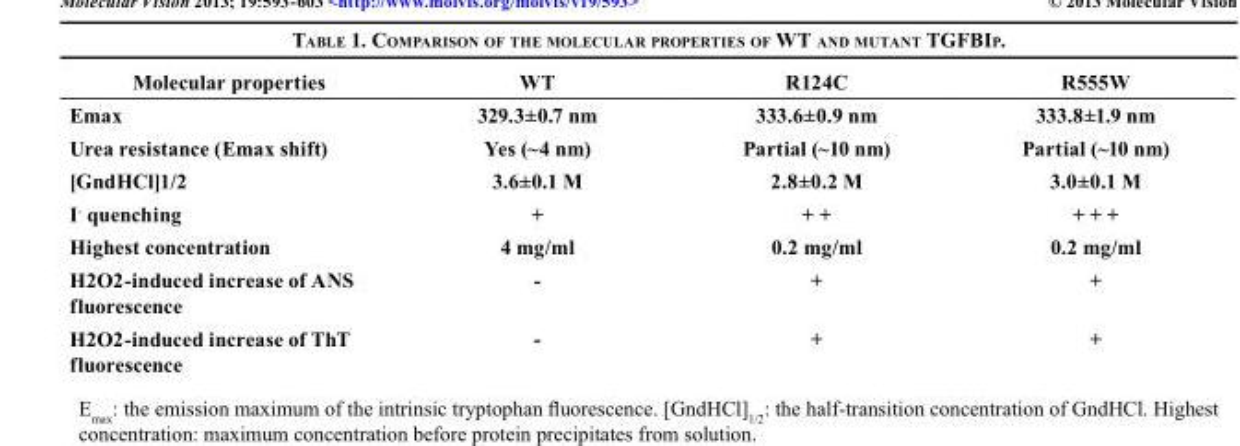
<table><thead><tr><td>Molecular properties</td><td>WT</td><td>R124C</td><td>R555W</td></tr></thead><tbody><tr><td>E<sub>max</sub></td><td>329.3±0.7 nm</td><td>333.6±0.9 nm</td><td>333.8±1.9 nm</td></tr><tr><td>Urea resistance (E<sub>max</sub> shift)</td><td>Yes (~4 nm)</td><td>Partial (~10 nm)</td><td>Partial (~10 nm)</td></tr><tr><td>[GndHCl]<sub>1/2</sub></td><td>3.6±0.1 M</td><td>2.8±0.2 M</td><td>3.0±0.1 M</td></tr><tr><td>I<sup>-</sup> quenching</td><td>+</td><td>+ +</td><td>+ + +</td></tr><tr><td>Highest concentration</td><td>4 mg/ml</td><td>0.2 mg/ml</td><td>0.2 mg/ml</td></tr><tr><td>H<sub>2</sub>O<sub>2</sub>-induced increase of ANS fluorescence</td><td>-</td><td>+</td><td>+</td></tr><tr><td>H<sub>2</sub>O<sub>2</sub>-induced increase of ThT fluorescence</td><td>-</td><td>+</td><td>+</td></tr></tbody></table>